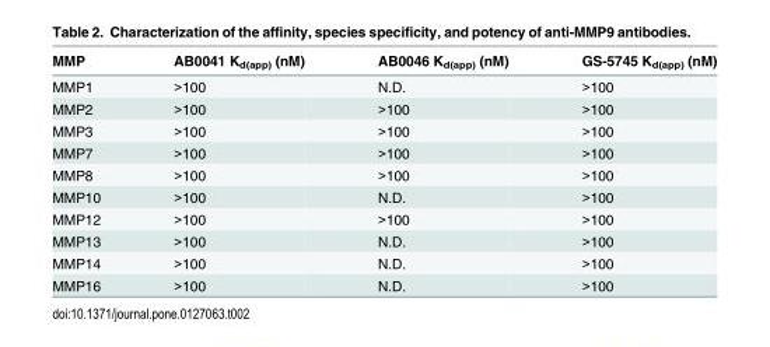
<table><thead><tr><td>MMP</td><td>AB0041 K<sub>d(app)</sub> (nM)</td><td>AB0046 K<sub>d(app)</sub> (nM)</td><td>GS-5745 K<sub>d(app)</sub> (nM)</td></tr></thead><tbody><tr><td>MMP1</td><td>&gt;100</td><td>N.D.</td><td>&gt;100</td></tr><tr><td>MMP2</td><td>&gt;100</td><td>&gt;100</td><td>&gt;100</td></tr><tr><td>MMP3</td><td>&gt;100</td><td>&gt;100</td><td>&gt;100</td></tr><tr><td>MMP7</td><td>&gt;100</td><td>&gt;100</td><td>&gt;100</td></tr><tr><td>MMP8</td><td>&gt;100</td><td>&gt;100</td><td>&gt;100</td></tr><tr><td>MMP10</td><td>&gt;100</td><td>N.D.</td><td>&gt;100</td></tr><tr><td>MMP12</td><td>&gt;100</td><td>&gt;100</td><td>&gt;100</td></tr><tr><td>MMP13</td><td>&gt;100</td><td>N.D.</td><td>&gt;100</td></tr><tr><td>MMP14</td><td>&gt;100</td><td>N.D.</td><td>&gt;100</td></tr><tr><td>MMP16</td><td>&gt;100</td><td>N.D.</td><td>&gt;100</td></tr></tbody></table>